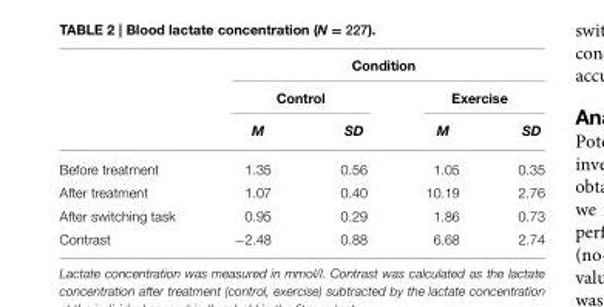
<table><thead><tr><td rowspan="3"></td><td colspan="4">Condition</td></tr><tr><td colspan="2">Control</td><td colspan="2">Exercise</td></tr><tr><td>M</td><td>SD</td><td>M</td><td>SD</td></tr></thead><tbody><tr><td>Before treatment</td><td>1.35</td><td>0.56</td><td>1.05</td><td>0.35</td></tr><tr><td>After treatment</td><td>1.07</td><td>0.40</td><td>10.19</td><td>2.76</td></tr><tr><td>After switching task</td><td>0.95</td><td>0.29</td><td>1.86</td><td>0.73</td></tr><tr><td>Contrast</td><td>−2.48</td><td>0.88</td><td>6.68</td><td>2.74</td></tr></tbody></table>